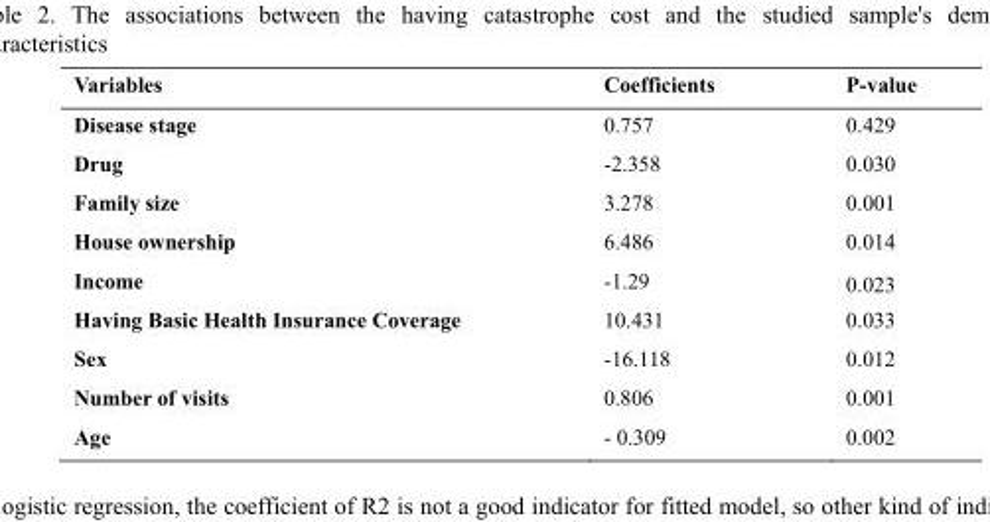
<table><thead><tr><td>Variables</td><td>Coefficients</td><td>P-value</td></tr></thead><tbody><tr><td>Disease stage</td><td>0.757</td><td>0.429</td></tr><tr><td>Drug</td><td>-2.358</td><td>0.030</td></tr><tr><td>Family size</td><td>3.278</td><td>0.001</td></tr><tr><td>House ownership</td><td>6.486</td><td>0.014</td></tr><tr><td>Income</td><td>-1.29</td><td>0.023</td></tr><tr><td>Having Basic Health Insurance Coverage</td><td>10.431</td><td>0.033</td></tr><tr><td>Sex</td><td>-16.118</td><td>0.012</td></tr><tr><td>Number of visits</td><td>0.806</td><td>0.001</td></tr><tr><td>Age</td><td>- 0.309</td><td>0.002</td></tr></tbody></table>